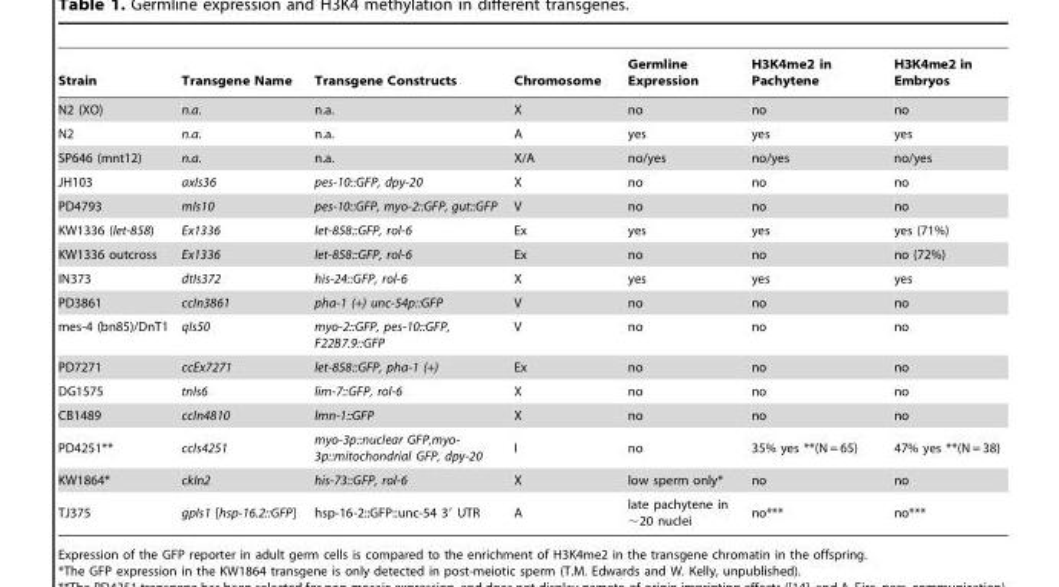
<table><thead><tr><td>Strain</td><td>Transgene Name</td><td>Transgene Constructs</td><td>Chromosome</td><td>Germline Expression</td><td>H3K4me2 in Pachytene</td><td>H3K4me2 in Embryos</td></tr></thead><tbody><tr><td>N2 (XO)</td><td>n.a.</td><td>n.a.</td><td>X</td><td>no</td><td>no</td><td>no</td></tr><tr><td>N2</td><td>n.a.</td><td>n.a.</td><td>A</td><td>yes</td><td>yes</td><td>yes</td></tr><tr><td>SP646 (mnt12)</td><td>n.a.</td><td>n.a.</td><td>X/A</td><td>no/yes</td><td>no/yes</td><td>no/yes</td></tr><tr><td>JH103</td><td>axIs36</td><td>pes-10::GFP, dpy-20</td><td>X</td><td>no</td><td>no</td><td>no</td></tr><tr><td>PD4793</td><td>mIs10</td><td>pes-10::GFP, myo-2::GFP, gut::GFP</td><td>V</td><td>no</td><td>no</td><td>no</td></tr><tr><td>KW1336 (let-858)</td><td>Ex1336</td><td>let-858::GFP, rol-6</td><td>Ex</td><td>yes</td><td>yes</td><td>yes (71%)</td></tr><tr><td>KW1336 outcross</td><td>Ex1336</td><td>let-858::GFP, rol-6</td><td>Ex</td><td>no</td><td>no</td><td>no (72%)</td></tr><tr><td>IN373</td><td>dtIs372</td><td>his-24::GFP, rol-6</td><td>X</td><td>yes</td><td>yes</td><td>yes</td></tr><tr><td>PD3861</td><td>ccIn3861</td><td>pha-1 (+) unc-54p::GFP</td><td>V</td><td>no</td><td>no</td><td>no</td></tr><tr><td>mes-4 (bn85)/DnT1</td><td>qIs50</td><td>myo-2::GFP, pes-10::GFP, F22B7.9::GFP</td><td>V</td><td>no</td><td>no</td><td>no</td></tr><tr><td>PD7271</td><td>ccEx7271</td><td>let-858::GFP, pha-1 (+)</td><td>Ex</td><td>no</td><td>no</td><td>no</td></tr><tr><td>DG1575</td><td>tnIs6</td><td>lim-7::GFP, rol-6</td><td>X</td><td>no</td><td>no</td><td>no</td></tr><tr><td>CB1489</td><td>ccIn4810</td><td>lmn-1::GFP</td><td>X</td><td>no</td><td>no</td><td>no</td></tr><tr><td>PD4251**</td><td>ccIs4251</td><td>myo-3p::nuclear GFP,myo- 3p::mitochondrial GFP, dpy-20</td><td>I</td><td>no</td><td>35% yes **(N = 65)</td><td>47% yes **(N = 38)</td></tr><tr><td>KW1864*</td><td>ckIn2</td><td>his-73::GFP, rol-6</td><td>X</td><td>low sperm only*</td><td>no</td><td>no</td></tr><tr><td>TJ375</td><td>gpIs1 [hsp-16.2::GFP]</td><td>hsp-16-2::GFP::unc-54 3′ UTR</td><td>A</td><td>late pachytene in ∼20 nuclei</td><td>no***</td><td>no***</td></tr></tbody></table>